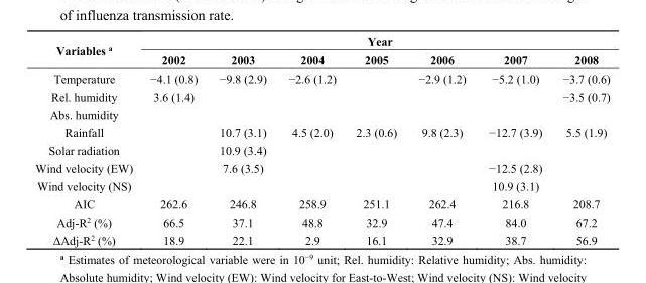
<table><thead><tr><td rowspan="2">Variables <sup>a</sup></td><td colspan="7">Year</td></tr><tr><td>2002</td><td>2003</td><td>2004</td><td>2005</td><td>2006</td><td>2007</td><td>2008</td></tr></thead><tbody><tr><td>Temperature</td><td>−4.1 (0.8)</td><td>−9.8 (2.9)</td><td>−2.6 (1.2)</td><td></td><td>−2.9 (1.2)</td><td>−5.2 (1.0)</td><td>−3.7 (0.6)</td></tr><tr><td>Rel. humidity</td><td>3.6 (1.4)</td><td></td><td></td><td></td><td></td><td></td><td>−3.5 (0.7)</td></tr><tr><td colspan="8">Abs. humidity</td></tr><tr><td>Rainfall</td><td></td><td>10.7 (3.1)</td><td>4.5 (2.0)</td><td>2.3 (0.6)</td><td>9.8 (2.3)</td><td>−12.7 (3.9)</td><td>5.5 (1.9)</td></tr><tr><td>Solar radiation</td><td></td><td>10.9 (3.4)</td><td></td><td></td><td></td><td></td><td></td></tr><tr><td>Wind velocity (EW)</td><td></td><td>7.6 (3.5)</td><td></td><td></td><td></td><td>−12.5 (2.8)</td><td></td></tr><tr><td>Wind velocity (NS)</td><td></td><td></td><td></td><td></td><td></td><td>10.9 (3.1)</td><td></td></tr><tr><td>AIC</td><td>262.6</td><td>246.8</td><td>258.9</td><td>251.1</td><td>262.4</td><td>216.8</td><td>208.7</td></tr><tr><td>Adj-R<sup>2</sup> (%)</td><td>66.5</td><td>37.1</td><td>48.8</td><td>32.9</td><td>47.4</td><td>84.0</td><td>67.2</td></tr><tr><td>ΔAdj-R<sup>2</sup> (%)</td><td>18.9</td><td>22.1</td><td>2.9</td><td>16.1</td><td>32.9</td><td>38.7</td><td>56.9</td></tr></tbody></table>